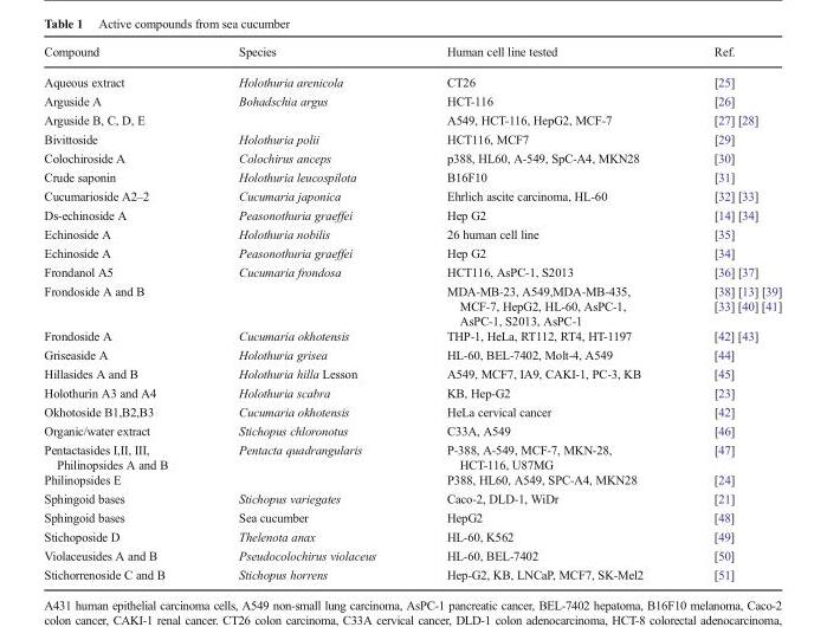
<table><thead><tr><td>Compound</td><td>Species</td><td>Human cell line tested</td><td>Ref.</td></tr></thead><tbody><tr><td>Aqueous extract</td><td>Holothuria arenicola</td><td>CT26</td><td>[25]</td></tr><tr><td>Arguside A</td><td rowspan="2">Bohadschia argus</td><td>HCT-116</td><td>[26]</td></tr><tr><td>Arguside B, C, D, E</td><td>A549, HCT-116, HepG2, MCF-7</td><td>[27] [28]</td></tr><tr><td>Bivittoside</td><td>Holothuria polii</td><td>HCT116, MCF7</td><td>[29]</td></tr><tr><td>Colochiroside A</td><td>Colochirus anceps</td><td>p388, HL60, A-549, SpC-A4, MKN28</td><td>[30]</td></tr><tr><td>Crude saponin</td><td>Holothuria leucospilota</td><td>B16F10</td><td>[31]</td></tr><tr><td>Cucumarioside A2–2</td><td>Cucumaria japonica</td><td>Ehrlich ascite carcinoma, HL-60</td><td>[32] [33]</td></tr><tr><td>Ds-echinoside A</td><td>Peasonothuria graeffei</td><td>Hep G2</td><td>[14] [34]</td></tr><tr><td>Echinoside A</td><td>Holothuria nobilis</td><td>26 human cell line</td><td>[35]</td></tr><tr><td>Echinoside A</td><td>Peasonothuria graeffei</td><td>Hep G2</td><td>[34]</td></tr><tr><td>Frondanol A5</td><td rowspan="2">Cucumaria frondosa</td><td>HCT116, AsPC-1, S2013</td><td>[36] [37]</td></tr><tr><td>Frondoside A and B</td><td>MDA-MB-23, A549,MDA-MB-435, MCF-7, HepG2, HL-60, AsPC-1, AsPC-1, S2013, AsPC-1</td><td>[38] [13] [39] [33] [40] [41]</td></tr><tr><td>Frondoside A</td><td>Cucumaria okhotensis</td><td>THP-1, HeLa, RT112, RT4, HT-1197</td><td>[42] [43]</td></tr><tr><td>Griseaside A</td><td>Holothuria grisea</td><td>HL-60, BEL-7402, Molt-4, A549</td><td>[44]</td></tr><tr><td>Hillasides A and B</td><td>Holothuria hilla Lesson</td><td>A549, MCF7, IA9, CAKI-1, PC-3, KB</td><td>[45]</td></tr><tr><td>Holothurin A3 and A4</td><td>Holothuria scabra</td><td>KB, Hep-G2</td><td>[23]</td></tr><tr><td>Okhotoside B1,B2,B3</td><td>Cucumaria okhotensis</td><td>HeLa cervical cancer</td><td>[42]</td></tr><tr><td>Organic/water extract</td><td>Stichopus chloronotus</td><td>C33A, A549</td><td>[46]</td></tr><tr><td>Pentactasides I,II, III, Philinopsides A and B</td><td rowspan="2">Pentacta quadrangularis</td><td>P-388, A-549, MCF-7, MKN-28, HCT-116, U87MG</td><td>[47]</td></tr><tr><td>Philinopsides E</td><td>P388, HL60, A549, SPC-A4, MKN28</td><td>[24]</td></tr><tr><td>Sphingoid bases</td><td>Stichopus variegates</td><td>Caco-2, DLD-1, WiDr</td><td>[21]</td></tr><tr><td>Sphingoid bases</td><td>Sea cucumber</td><td>HepG2</td><td>[48]</td></tr><tr><td>Stichoposide D</td><td>Thelenota anax</td><td>HL-60, K562</td><td>[49]</td></tr><tr><td>Violaceusides A and B</td><td>Pseudocolochirus violaceus</td><td>HL-60, BEL-7402</td><td>[50]</td></tr><tr><td>Stichorrenoside C and B</td><td>Stichopus horrens</td><td>Hep-G2, KB, LNCaP, MCF7, SK-Mel2</td><td>[51]</td></tr></tbody></table>